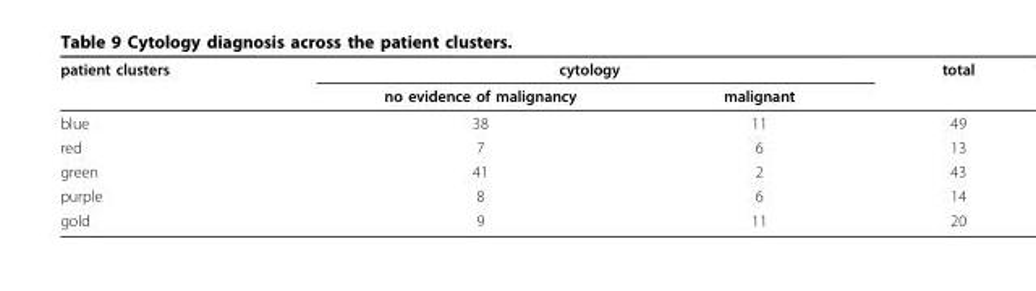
<table><thead><tr><td rowspan="2">patient clusters</td><td colspan="2">cytology</td><td rowspan="2">total</td></tr><tr><td>no evidence of malignancy</td><td>malignant</td></tr></thead><tbody><tr><td>blue</td><td>38</td><td>11</td><td>49</td></tr><tr><td>red</td><td>7</td><td>6</td><td>13</td></tr><tr><td>green</td><td>41</td><td>2</td><td>43</td></tr><tr><td>purple</td><td>8</td><td>6</td><td>14</td></tr><tr><td>gold</td><td>9</td><td>11</td><td>20</td></tr></tbody></table>